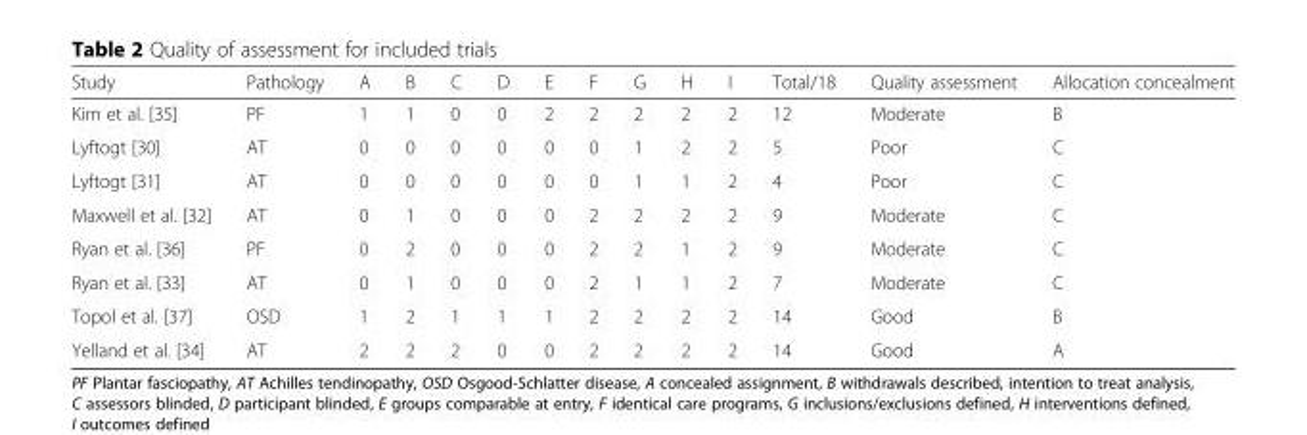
<table><thead><tr><td>Study</td><td>Pathology</td><td>A</td><td>B</td><td>C</td><td>D</td><td>E</td><td>F</td><td>G</td><td>H</td><td>I</td><td>Total/18</td><td>Quality assessment</td><td>Allocation concealment</td></tr></thead><tbody><tr><td>Kim et al. [35]</td><td>PF</td><td>1</td><td>1</td><td>0</td><td>0</td><td>2</td><td>2</td><td>2</td><td>2</td><td>2</td><td>12</td><td>Moderate</td><td>B</td></tr><tr><td>Lyftogt [30]</td><td>AT</td><td>0</td><td>0</td><td>0</td><td>0</td><td>0</td><td>0</td><td>1</td><td>2</td><td>2</td><td>5</td><td>Poor</td><td>C</td></tr><tr><td>Lyftogt [31]</td><td>AT</td><td>0</td><td>0</td><td>0</td><td>0</td><td>0</td><td>0</td><td>1</td><td>1</td><td>2</td><td>4</td><td>Poor</td><td>C</td></tr><tr><td>Maxwell et al. [32]</td><td>AT</td><td>0</td><td>1</td><td>0</td><td>0</td><td>0</td><td>2</td><td>2</td><td>2</td><td>2</td><td>9</td><td>Moderate</td><td>C</td></tr><tr><td>Ryan et al. [36]</td><td>PF</td><td>0</td><td>2</td><td>0</td><td>0</td><td>0</td><td>2</td><td>2</td><td>1</td><td>2</td><td>9</td><td>Moderate</td><td>C</td></tr><tr><td>Ryan et al. [33]</td><td>AT</td><td>0</td><td>1</td><td>0</td><td>0</td><td>0</td><td>2</td><td>1</td><td>1</td><td>2</td><td>7</td><td>Moderate</td><td>C</td></tr><tr><td>Topol et al. [37]</td><td>OSD</td><td>1</td><td>2</td><td>1</td><td>1</td><td>1</td><td>2</td><td>2</td><td>2</td><td>2</td><td>14</td><td>Good</td><td>B</td></tr><tr><td>Yelland et al. [34]</td><td>AT</td><td>2</td><td>2</td><td>2</td><td>0</td><td>0</td><td>2</td><td>2</td><td>2</td><td>2</td><td>14</td><td>Good</td><td>A</td></tr></tbody></table>